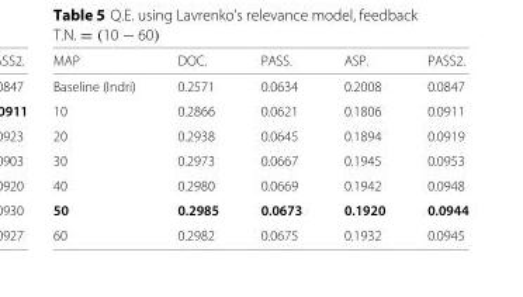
<table><thead><tr><td>MAP</td><td>DOC.</td><td>PASS.</td><td>ASP.</td><td>PASS2.</td></tr></thead><tbody><tr><td>Baseline (Indri)</td><td>0.2571</td><td>0.0634</td><td>0.2008</td><td>0.0847</td></tr><tr><td>10</td><td>0.2866</td><td>0.0621</td><td>0.1806</td><td>0.0911</td></tr><tr><td>20</td><td>0.2938</td><td>0.0645</td><td>0.1894</td><td>0.0919</td></tr><tr><td>30</td><td>0.2973</td><td>0.0667</td><td>0.1945</td><td>0.0953</td></tr><tr><td>40</td><td>0.2980</td><td>0.0669</td><td>0.1942</td><td>0.0948</td></tr><tr><td>50</td><td>0.2985</td><td>0.0673</td><td>0.1920</td><td>0.0944</td></tr><tr><td>60</td><td>0.2982</td><td>0.0675</td><td>0.1932</td><td>0.0945</td></tr></tbody></table>